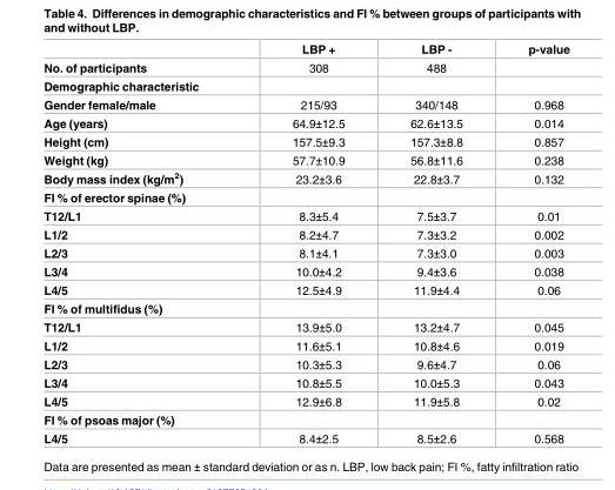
<table><thead><tr><td></td><td>LBP +</td><td>LBP -</td><td>p-value</td></tr></thead><tbody><tr><td>No. of participants</td><td>308</td><td>488</td><td></td></tr><tr><td colspan="4">Demographic characteristic</td></tr><tr><td>Gender female/male</td><td>215/93</td><td>340/148</td><td>0.968</td></tr><tr><td>Age (years)</td><td>64.9±12.5</td><td>62.6±13.5</td><td>0.014</td></tr><tr><td>Height (cm)</td><td>157.5±9.3</td><td>157.3±8.8</td><td>0.857</td></tr><tr><td>Weight (kg)</td><td>57.7±10.9</td><td>56.8±11.6</td><td>0.238</td></tr><tr><td>Body mass index (kg/m<sup>2</sup>)</td><td>23.2±3.6</td><td>22.8±3.7</td><td>0.132</td></tr><tr><td colspan="4">FI % of erector spinae (%)</td></tr><tr><td>T12/L1</td><td>8.3±5.4</td><td>7.5±3.7</td><td>0.01</td></tr><tr><td>L1/2</td><td>8.2±4.7</td><td>7.3±3.2</td><td>0.002</td></tr><tr><td>L2/3</td><td>8.1±4.1</td><td>7.3±3.0</td><td>0.003</td></tr><tr><td>L3/4</td><td>10.0±4.2</td><td>9.4±3.6</td><td>0.038</td></tr><tr><td>L4/5</td><td>12.5±4.9</td><td>11.9±4.4</td><td>0.06</td></tr><tr><td colspan="4">FI % of multifidus (%)</td></tr><tr><td>T12/L1</td><td>13.9±5.0</td><td>13.2±4.7</td><td>0.045</td></tr><tr><td>L1/2</td><td>11.6±5.1</td><td>10.8±4.6</td><td>0.019</td></tr><tr><td>L2/3</td><td>10.3±5.3</td><td>9.6±4.7</td><td>0.06</td></tr><tr><td>L3/4</td><td>10.8±5.5</td><td>10.0±5.3</td><td>0.043</td></tr><tr><td>L4/5</td><td>12.9±6.8</td><td>11.9±5.8</td><td>0.02</td></tr><tr><td colspan="4">FI % of psoas major (%)</td></tr><tr><td>L4/5</td><td>8.4±2.5</td><td>8.5±2.6</td><td>0.568</td></tr></tbody></table>